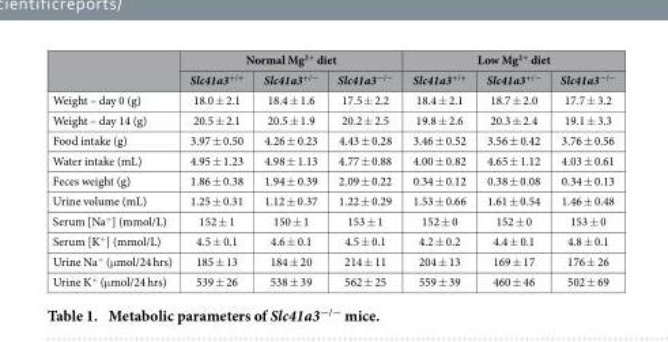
<table><thead><tr><td rowspan="2"></td><td colspan="3">Normal Mg<sup>2+</sup> diet</td><td colspan="3">Low Mg<sup>2+</sup> diet</td></tr><tr><td>Slc41a3<sup>+/+</sup></td><td>Slc41a3<sup>+/−</sup></td><td>Slc41a3<sup>−/−</sup></td><td>Slc41a3<sup>+/+</sup></td><td>Slc41a3<sup>+/−</sup></td><td>Slc41a3<sup>−/−</sup></td></tr></thead><tbody><tr><td>Weight – day 0 (g)</td><td>18.0 ± 2.1</td><td>18.4 ± 1.6</td><td>17.5 ± 2.2</td><td>18.4 ± 2.1</td><td>18.7 ± 2.0</td><td>17.7 ± 3.2</td></tr><tr><td>Weight – day 14 (g)</td><td>20.5 ± 2.1</td><td>20.5 ± 1.9</td><td>20.2 ± 2.5</td><td>19.8 ± 2.6</td><td>20.3 ± 2.4</td><td>19.1 ± 3.3</td></tr><tr><td>Food intake (g)</td><td>3.97 ± 0.50</td><td>4.26 ± 0.23</td><td>4.43 ± 0.28</td><td>3.46 ± 0.52</td><td>3.56 ± 0.42</td><td>3.76 ± 0.56</td></tr><tr><td>Water intake (mL)</td><td>4.95 ± 1.23</td><td>4.98 ± 1.13</td><td>4.77 ± 0.88</td><td>4.00 ± 0.82</td><td>4.65 ± 1.12</td><td>4.03 ± 0.61</td></tr><tr><td>Feces weight (g)</td><td>1.86 ± 0.38</td><td>1.94 ± 0.39</td><td>2.09 ± 0.22</td><td>0.34 ± 0.12</td><td>0.38 ± 0.08</td><td>0.34 ± 0.13</td></tr><tr><td>Urine volume (mL)</td><td>1.25 ± 0.31</td><td>1.12 ± 0.37</td><td>1.22 ± 0.29</td><td>1.53 ± 0.66</td><td>1.61 ± 0.54</td><td>1.46 ± 0.48</td></tr><tr><td>Serum [Na<sup>+</sup>] (mmol/L)</td><td>152 ± 1</td><td>150 ± 1</td><td>153 ± 1</td><td>152 ± 0</td><td>152 ± 0</td><td>153 ± 0</td></tr><tr><td>Serum [K<sup>+</sup>] (mmol/L)</td><td>4.5 ± 0.1</td><td>4.6 ± 0.1</td><td>4.5 ± 0.1</td><td>4.2 ± 0.2</td><td>4.4 ± 0.1</td><td>4.8 ± 0.1</td></tr><tr><td>Urine Na<sup>+</sup> (μ mol/24 hrs)</td><td>185 ± 13</td><td>184 ± 20</td><td>214 ± 11</td><td>204 ± 13</td><td>169 ± 17</td><td>176 ± 26</td></tr><tr><td>Urine K<sup>+</sup> (μ mol/24 hrs)</td><td>539 ± 26</td><td>538 ± 39</td><td>562 ± 25</td><td>559 ± 39</td><td>460 ± 46</td><td>502 ± 69</td></tr></tbody></table>